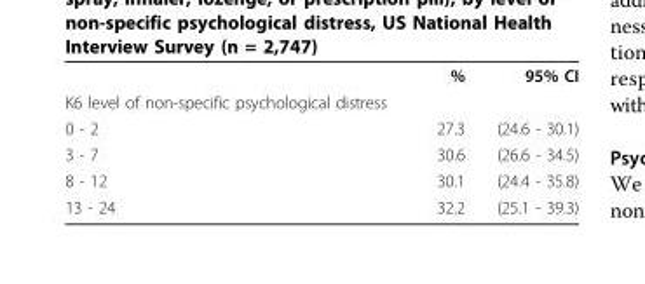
<table><thead><tr><td></td><td>%</td><td>95% CI</td></tr></thead><tbody><tr><td colspan="3">K6 level of non-specific psychological distress</td></tr><tr><td>0 - 2</td><td>27.3</td><td>(24.6 - 30.1)</td></tr><tr><td>3 - 7</td><td>30.6</td><td>(26.6 - 34.5)</td></tr><tr><td>8 - 12</td><td>30.1</td><td>(24.4 - 35.8)</td></tr><tr><td>13 - 24</td><td>32.2</td><td>(25.1 - 39.3)</td></tr></tbody></table>